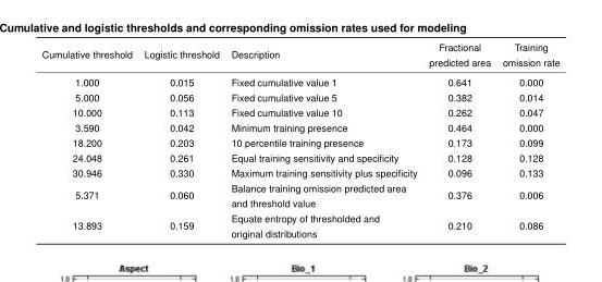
<table><thead><tr><td>Cumulative threshold</td><td>Logistic threshold</td><td>Description</td><td>Fractional predicted area</td><td>Training omission rate</td></tr></thead><tbody><tr><td>1.000</td><td>0.015</td><td>Fixed cumulative value 1</td><td>0.641</td><td>0.000</td></tr><tr><td>5.000</td><td>0.056</td><td>Fixed cumulative value 5</td><td>0.382</td><td>0.014</td></tr><tr><td>10.000</td><td>0.113</td><td>Fixed cumulative value 10</td><td>0.262</td><td>0.047</td></tr><tr><td>3.590</td><td>0.042</td><td>Minimum training presence</td><td>0.464</td><td>0.000</td></tr><tr><td>18.200</td><td>0.203</td><td>10 percentile training presence</td><td>0.173</td><td>0.099</td></tr><tr><td>24.048</td><td>0.261</td><td>Equal training sensitivity and specificity</td><td>0.128</td><td>0.128</td></tr><tr><td>30.946</td><td>0.330</td><td>Maximum training sensitivity plus specificity</td><td>0.096</td><td>0.133</td></tr><tr><td>5.371</td><td>0.060</td><td>Balance training omission predicted area and threshold value</td><td>0.376</td><td>0.006</td></tr><tr><td>13.893</td><td>0.159</td><td>Equate entropy of thresholded and original distributions</td><td>0.210</td><td>0.086</td></tr></tbody></table>